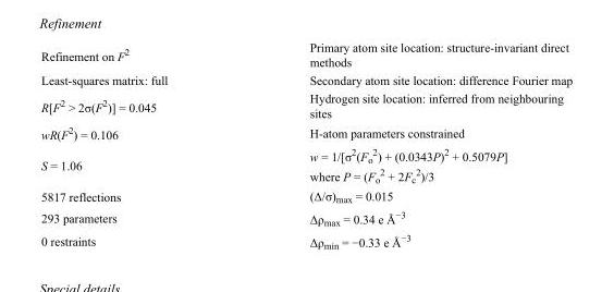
<table><tbody><tr><td>Refinement on F<sup>2</sup></td><td>Primary atom site location: structure-invariant direct methods</td></tr><tr><td>Least-squares matrix: full</td><td>Secondary atom site location: difference Fourier map</td></tr><tr><td>R[F<sup>2</sup> &gt; 2σ(F<sup>2</sup>)] = 0.045</td><td>Hydrogen site location: inferred from neighbouring sites</td></tr><tr><td>wR(F<sup>2</sup>) = 0.106</td><td>H-atom parameters constrained</td></tr><tr><td>S = 1.06</td><td>w = 1/[σ<sup>2</sup>(F<sub>o</sub> <sup>2</sup>) + (0.0343P)<sup>2</sup> + 0.5079P] where P = (F<sub>o</sub> <sup>2</sup> + 2F<sub>c</sub> <sup>2</sup>)/3</td></tr><tr><td>5817 reflections</td><td>(Δ/σ)<sub>max</sub> = 0.015</td></tr><tr><td>293 parameters</td><td>Δρ<sub>max</sub> = 0.34 e Å<sup>−3</sup></td></tr><tr><td>0 restraints</td><td>Δρ<sub>min</sub> = −0.33 e Å<sup>−3</sup></td></tr></tbody></table>